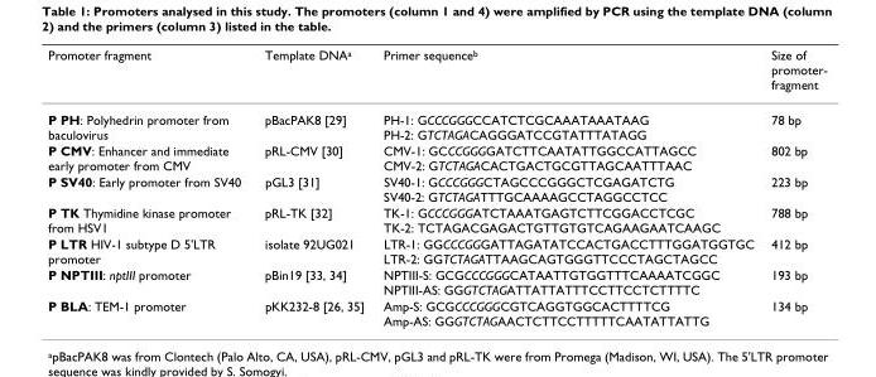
<table><thead><tr><td>Promoter fragment</td><td>Template DNAa</td><td>Primer sequenceb</td><td>Size of promoter- fragment</td></tr></thead><tbody><tr><td>P PH: Polyhedrin promoter from baculovirus</td><td>pBacPAK8 [29]</td><td>PH-1: GCCCGGGCCATCTCGCAAATAAATAAG PH-2: GTCTAGACAGGGATCCGTATTTATAGG</td><td>78 bp</td></tr><tr><td>P CMV: Enhancer and immediate early promoter from CMV</td><td>pRL-CMV [30]</td><td>CMV-1: GCCCGGGGATCTTCAATATTGGCCATTAGCC CMV-2: GTCTAGACACTGACTGCGTTAGCAATTTAAC</td><td>802 bp</td></tr><tr><td>P SV40: Early promoter from SV40</td><td>pGL3 [31]</td><td>SV40-1: GCCCGGGCTAGCCCGGGCTCGAGATCTG SV40-2: GTCTAGATTTGCAAAAGCCTAGGCCTCC</td><td>223 bp</td></tr><tr><td>P TK Thymidine kinase promoter from HSV1</td><td>pRL-TK [32]</td><td>TK-1: GCCCGGGATCTAAATGAGTCTTCGGACCTCGC TK-2: TCTAGACGAGACTGTTGTGTCAGAAGAATCAAGC</td><td>788 bp</td></tr><tr><td>P LTR HIV-1 subtype D 5&#x27;LTR promoter</td><td>isolate 92UG021</td><td>LTR-1: GGCCCGGGATTAGATATCCACTGACCTTTGGATGGTGC LTR-2: GGTCTAGATTAAGCAGTGGGTTCCCTAGCTAGCC</td><td>412 bp</td></tr><tr><td>P NPTIII: nptIII promoter</td><td>pBin19 [33, 34]</td><td>NPTIII-S: GCGCCCGGGCATAATTGTGGTTTCAAAATCGGC NPTIII-AS: GGGTCTAGATTATTATTTCCTTCCTCTTTTC</td><td>193 bp</td></tr><tr><td>P BLA: TEM-1 promoter</td><td>pKK232-8 [26, 35]</td><td>Amp-S: GCGCCCGGGCGTCAGGTGGCACTTTTCG Amp-AS: GGGTCTAGAACTCTTCCTTTTTCAATATTATTG</td><td>134 bp</td></tr></tbody></table>